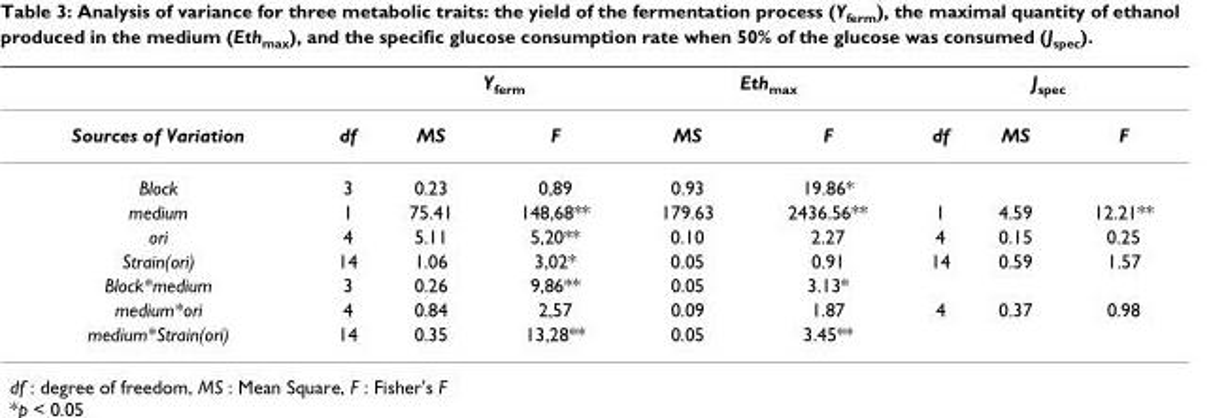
<table><thead><tr><td rowspan="2">Sources of Variation</td><td rowspan="2">df</td><td colspan="2">Y<sub>ferm</sub></td><td colspan="2">Eth<sub>max</sub></td><td colspan="3">J<sub>spec</sub></td></tr><tr><td>MS</td><td>F</td><td>MS</td><td>F</td><td>df</td><td>MS</td><td>F</td></tr></thead><tbody><tr><td>Block</td><td>3</td><td>0.23</td><td>0,89</td><td>0.93</td><td>19.86*</td><td></td><td></td><td></td></tr><tr><td>medium</td><td>1</td><td>75.41</td><td>148,68**</td><td>179.63</td><td>2436.56**</td><td>1</td><td>4.59</td><td>12.21**</td></tr><tr><td>ori</td><td>4</td><td>5.11</td><td>5,20**</td><td>0.10</td><td>2.27</td><td>4</td><td>0.15</td><td>0.25</td></tr><tr><td>Strain(ori)</td><td>14</td><td>1.06</td><td>3,02*</td><td>0.05</td><td>0.91</td><td>14</td><td>0.59</td><td>1.57</td></tr><tr><td>Block*medium</td><td>3</td><td>0.26</td><td>9,86**</td><td>0.05</td><td>3.13*</td><td></td><td></td><td></td></tr><tr><td>medium*ori</td><td>4</td><td>0.84</td><td>2,57</td><td>0.09</td><td>1.87</td><td>4</td><td>0.37</td><td>0.98</td></tr><tr><td>medium*Strain(ori)</td><td>14</td><td>0.35</td><td>13,28**</td><td>0.05</td><td>3.45**</td><td></td><td></td><td></td></tr></tbody></table>